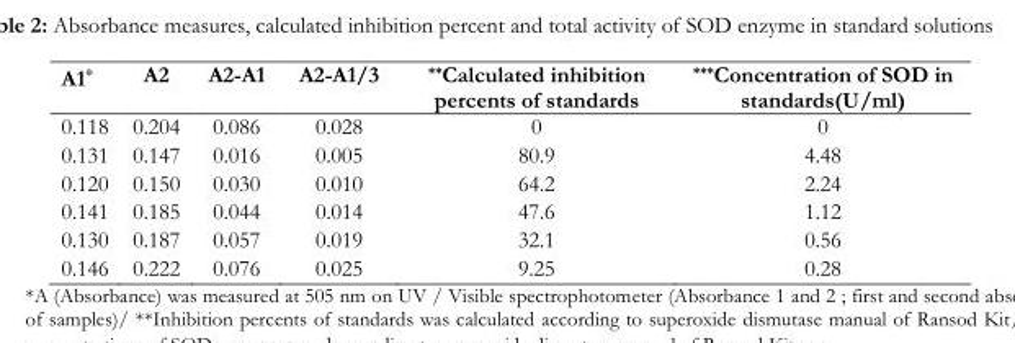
<table><thead><tr><td>A1 *</td><td>A2</td><td>A2-A1</td><td>A2-A1/3</td><td>**Calculated inhibition percents of standards</td><td>***Concentration of SOD in standards(U/ml)</td></tr></thead><tbody><tr><td>0.118</td><td>0.204</td><td>0.086</td><td>0.028</td><td>0</td><td>0</td></tr><tr><td>0.131</td><td>0.147</td><td>0.016</td><td>0.005</td><td>80.9</td><td>4.48</td></tr><tr><td>0.120</td><td>0.150</td><td>0.030</td><td>0.010</td><td>64.2</td><td>2.24</td></tr><tr><td>0.141</td><td>0.185</td><td>0.044</td><td>0.014</td><td>47.6</td><td>1.12</td></tr><tr><td>0.130</td><td>0.187</td><td>0.057</td><td>0.019</td><td>32.1</td><td>0.56</td></tr><tr><td>0.146</td><td>0.222</td><td>0.076</td><td>0.025</td><td>9.25</td><td>0.28</td></tr></tbody></table>